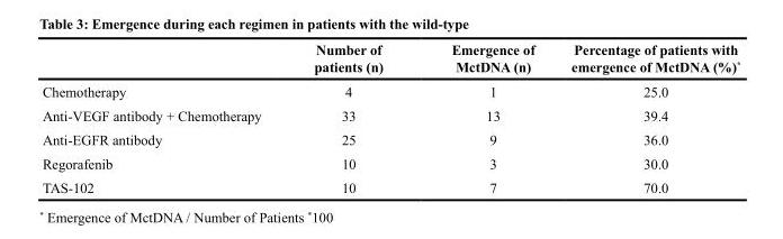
<table><thead><tr><td></td><td>Number of patients (n)</td><td>Emergence of MctDNA (n)</td><td>Percentage of patients with emergence of MctDNA (%)*</td></tr></thead><tbody><tr><td>Chemotherapy</td><td>4</td><td>1</td><td>25.0</td></tr><tr><td>Anti-VEGF antibody + Chemotherapy</td><td>33</td><td>13</td><td>39.4</td></tr><tr><td>Anti-EGFR antibody</td><td>25</td><td>9</td><td>36.0</td></tr><tr><td>Regorafenib</td><td>10</td><td>3</td><td>30.0</td></tr><tr><td>TAS-102</td><td>10</td><td>7</td><td>70.0</td></tr></tbody></table>